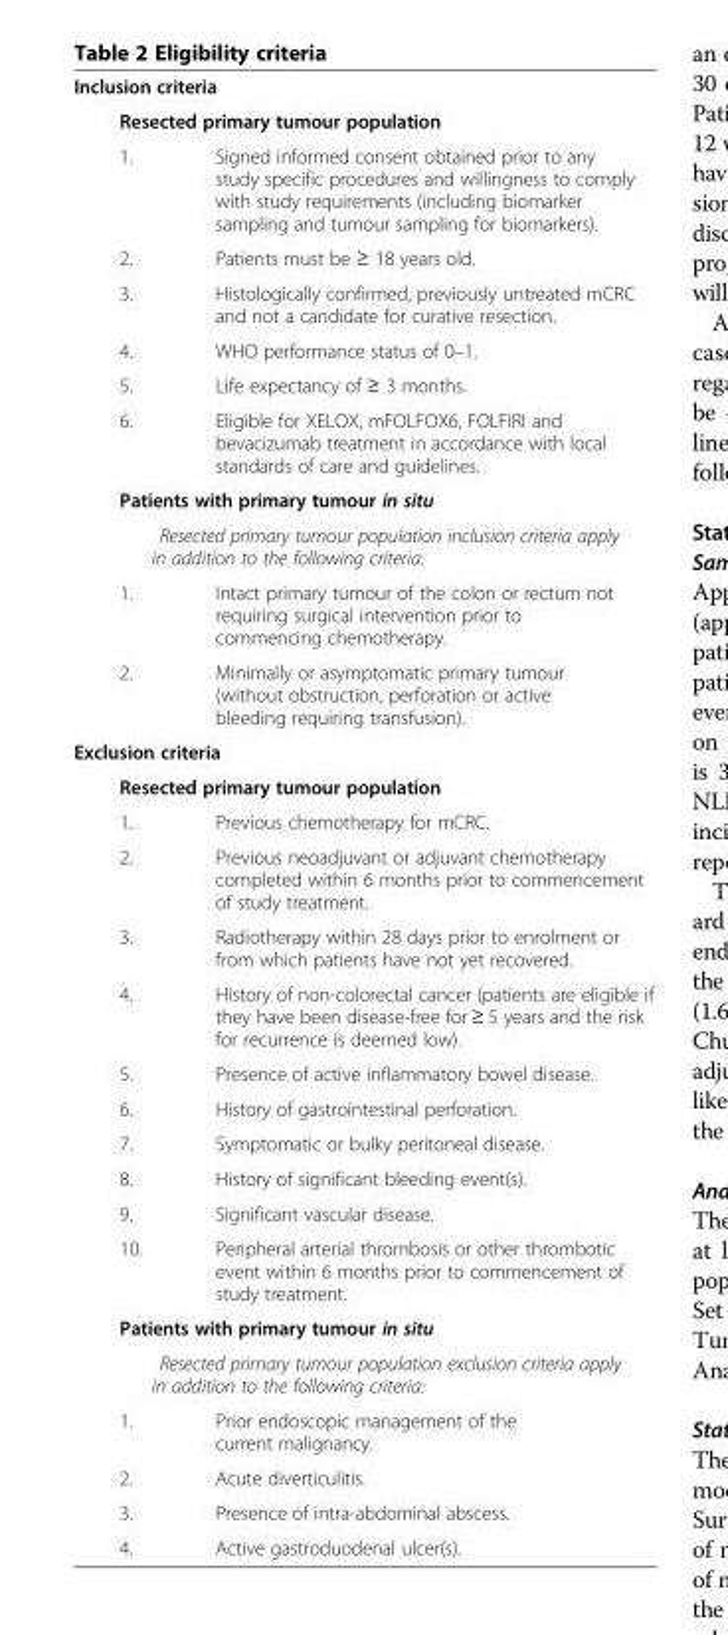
<table><tbody><tr><td colspan="2">Inclusion criteria</td></tr><tr><td colspan="2">Resected primary tumour population</td></tr><tr><td>1.</td><td>Signed informed consent obtained prior to any study specific procedures and willingness to comply with study requirements (including biomarker sampling and tumour sampling for biomarkers).</td></tr><tr><td>2.</td><td>Patients must be ≥ 18 years old.</td></tr><tr><td>3.</td><td>Histologically confirmed, previously untreated mCRC and not a candidate for curative resection.</td></tr><tr><td>4.</td><td>WHO performance status of 0–1.</td></tr><tr><td>5.</td><td>Life expectancy of ≥ 3 months.</td></tr><tr><td>6.</td><td>Eligible for XELOX, mFOLFOX6, FOLFIRI and bevacizumab treatment in accordance with local standards of care and guidelines.</td></tr><tr><td colspan="2">Patients with primary tumour in situ</td></tr><tr><td colspan="2">Resected primary tumour population inclusion criteria apply in addition to the following criteria:</td></tr><tr><td>1.</td><td>Intact primary tumour of the colon or rectum not requiring surgical intervention prior to commencing chemotherapy.</td></tr><tr><td>2.</td><td>Minimally or asymptomatic primary tumour (without obstruction, perforation or active bleeding requiring transfusion).</td></tr><tr><td colspan="2">Exclusion criteria</td></tr><tr><td colspan="2">Resected primary tumour population</td></tr><tr><td>1.</td><td>Previous chemotherapy for mCRC.</td></tr><tr><td>2.</td><td>Previous neoadjuvant or adjuvant chemotherapy completed within 6 months prior to commencement of study treatment.</td></tr><tr><td>3.</td><td>Radiotherapy within 28 days prior to enrolment or from which patients have not yet recovered.</td></tr><tr><td>4.</td><td>History of non-colorectal cancer (patients are eligible if they have been disease-free for ≥ 5 years and the risk for recurrence is deemed low).</td></tr><tr><td>5.</td><td>Presence of active inflammatory bowel disease.</td></tr><tr><td>6.</td><td>History of gastrointestinal perforation.</td></tr><tr><td>7.</td><td>Symptomatic or bulky peritoneal disease.</td></tr><tr><td>8.</td><td>History of significant bleeding event(s).</td></tr><tr><td>9.</td><td>Significant vascular disease.</td></tr><tr><td>10.</td><td>Peripheral arterial thrombosis or other thrombotic event within 6 months prior to commencement of study treatment.</td></tr><tr><td colspan="2">Patients with primary tumour in situ</td></tr><tr><td colspan="2">Resected primary tumour population exclusion criteria apply in addition to the following criteria:</td></tr><tr><td>1.</td><td>Prior endoscopic management of the current malignancy.</td></tr><tr><td>2.</td><td>Acute diverticulitis.</td></tr><tr><td>3.</td><td>Presence of intra-abdominal abscess.</td></tr><tr><td>4.</td><td>Active gastroduodenal ulcer(s).</td></tr></tbody></table>